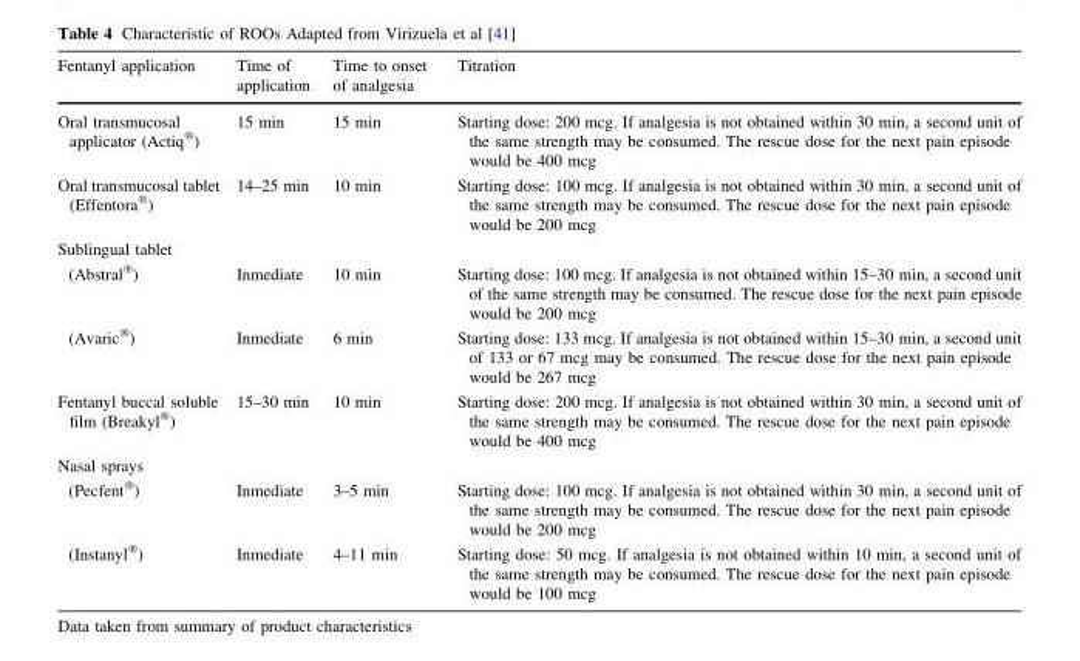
<table><thead><tr><td>Fentanyl application</td><td>Time of application</td><td>Time to onset of analgesia</td><td>Titration</td></tr></thead><tbody><tr><td>Oral transmucosal applicator (Actiq<sup>®</sup>)</td><td>15 min</td><td>15 min</td><td>Starting dose: 200 mcg. If analgesia is not obtained within 30 min, a second unit of the same strength may be consumed. The rescue dose for the next pain episode would be 400 mcg</td></tr><tr><td>Oral transmucosal tablet (Effentora<sup>®</sup>)</td><td>14–25 min</td><td>10 min</td><td>Starting dose: 100 mcg. If analgesia is not obtained within 30 min, a second unit of the same strength may be consumed. The rescue dose for the next pain episode would be 200 mcg</td></tr><tr><td colspan="4">Sublingual tablet</td></tr><tr><td>(Abstral<sup>®</sup>)</td><td>Inmediate</td><td>10 min</td><td>Starting dose: 100 mcg. If analgesia is not obtained within 15–30 min, a second unit of the same strength may be consumed. The rescue dose for the next pain episode would be 200 mcg</td></tr><tr><td>(Avaric<sup>®</sup>)</td><td>Inmediate</td><td>6 min</td><td>Starting dose: 133 mcg. If analgesia is not obtained within 15–30 min, a second unit of 133 or 67 mcg may be consumed. The rescue dose for the next pain episode would be 267 mcg</td></tr><tr><td>Fentanyl buccal soluble film (Breakyl<sup>®</sup>)</td><td>15–30 min</td><td>10 min</td><td>Starting dose: 200 mcg. If analgesia is not obtained within 30 min, a second unit of the same strength may be consumed. The rescue dose for the next pain episode would be 400 mcg</td></tr><tr><td colspan="4">Nasal sprays</td></tr><tr><td>(Pecfent<sup>®</sup>)</td><td>Inmediate</td><td>3–5 min</td><td>Starting dose: 100 mcg. If analgesia is not obtained within 30 min, a second unit of the same strength may be consumed. The rescue dose for the next pain episode would be 200 mcg</td></tr><tr><td>(Instanyl<sup>®</sup>)</td><td>Inmediate</td><td>4–11 min</td><td>Starting dose: 50 mcg. If analgesia is not obtained within 10 min, a second unit of the same strength may be consumed. The rescue dose for the next pain episode would be 100 mcg</td></tr></tbody></table>